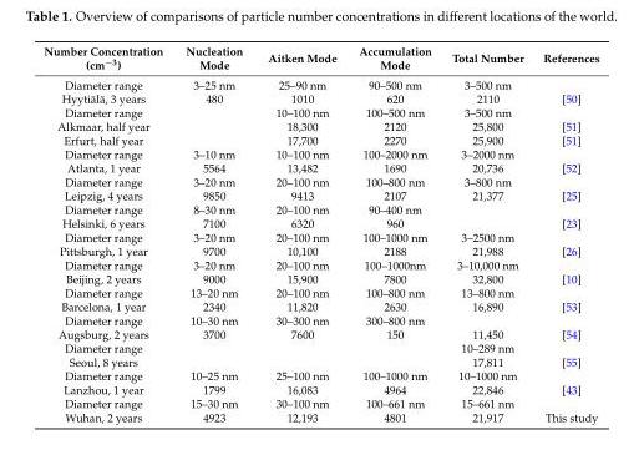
<table><thead><tr><td>Number Concentration (cm<sup>−3</sup>)</td><td>Nucleation Mode</td><td>Aitken Mode</td><td>Accumulation Mode</td><td>Total Number</td><td>References</td></tr></thead><tbody><tr><td>Diameter range</td><td>3–25 nm</td><td>25–90 nm</td><td>90–500 nm</td><td>3–500 nm</td><td></td></tr><tr><td>Hyytiälä, 3 years</td><td>480</td><td>1010</td><td>620</td><td>2110</td><td>[50]</td></tr><tr><td>Diameter range</td><td></td><td>10–100 nm</td><td>100–500 nm</td><td>3–500 nm</td><td></td></tr><tr><td>Alkmaar, half year</td><td></td><td>18,300</td><td>2120</td><td>25,800</td><td>[51]</td></tr><tr><td>Erfurt, half year</td><td></td><td>17,700</td><td>2270</td><td>25,900</td><td>[51]</td></tr><tr><td>Diameter range</td><td>3–10 nm</td><td>10–100 nm</td><td>100–2000 nm</td><td>3–2000 nm</td><td></td></tr><tr><td>Atlanta, 1 year</td><td>5564</td><td>13,482</td><td>1690</td><td>20,736</td><td>[52]</td></tr><tr><td>Diameter range</td><td>3–20 nm</td><td>20–100 nm</td><td>100–800 nm</td><td>3–800 nm</td><td></td></tr><tr><td>Leipzig, 4 years</td><td>9850</td><td>9413</td><td>2107</td><td>21,377</td><td>[25]</td></tr><tr><td>Diameter range</td><td>8–30 nm</td><td>20–100 nm</td><td>90–400 nm</td><td></td><td></td></tr><tr><td>Helsinki, 6 years</td><td>7100</td><td>6320</td><td>960</td><td></td><td>[23]</td></tr><tr><td>Diameter range</td><td>3–20 nm</td><td>20–100 nm</td><td>100–1000 nm</td><td>3–2500 nm</td><td></td></tr><tr><td>Pittsburgh, 1 year</td><td>9700</td><td>10,100</td><td>2188</td><td>21,988</td><td>[26]</td></tr><tr><td>Diameter range</td><td>3–20 nm</td><td>20–100 nm</td><td>100–1000nm</td><td>3–10,000 nm</td><td></td></tr><tr><td>Beijing, 2 years</td><td>9000</td><td>15,900</td><td>7800</td><td>32,800</td><td>[10]</td></tr><tr><td>Diameter range</td><td>13–20 nm</td><td>20–100 nm</td><td>100–800 nm</td><td>13–800 nm</td><td></td></tr><tr><td>Barcelona, 1 year</td><td>2340</td><td>11,820</td><td>2630</td><td>16,890</td><td>[53]</td></tr><tr><td>Diameter range</td><td>10–30 nm</td><td>30–300 nm</td><td>300–800 nm</td><td></td><td></td></tr><tr><td>Augsburg, 2 years</td><td>3700</td><td>7600</td><td>150</td><td>11,450</td><td>[54]</td></tr><tr><td>Diameter range</td><td></td><td></td><td></td><td>10–289 nm</td><td></td></tr><tr><td>Seoul, 8 years</td><td></td><td></td><td></td><td>17,811</td><td>[55]</td></tr><tr><td>Diameter range</td><td>10–25 nm</td><td>25–100 nm</td><td>100–1000 nm</td><td>10–1000 nm</td><td></td></tr><tr><td>Lanzhou, 1 year</td><td>1799</td><td>16,083</td><td>4964</td><td>22,846</td><td>[43]</td></tr><tr><td>Diameter range</td><td>15–30 nm</td><td>30–100 nm</td><td>100–661 nm</td><td>15–661 nm</td><td></td></tr><tr><td>Wuhan, 2 years</td><td>4923</td><td>12,193</td><td>4801</td><td>21,917</td><td>This study</td></tr></tbody></table>